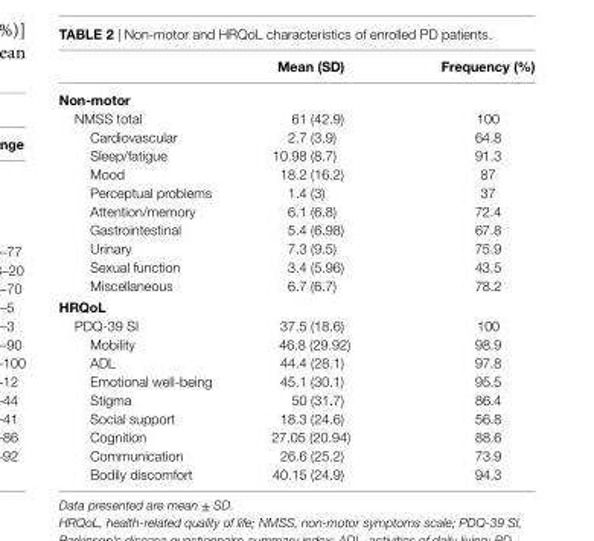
<table><thead><tr><td></td><td>Mean (sD)</td><td>Frequency (%)</td></tr></thead><tbody><tr><td colspan="3">non-motor</td></tr><tr><td>NMSS total</td><td>61 (42.9)</td><td>100</td></tr><tr><td>Cardiovascular</td><td>2.7 (3.9)</td><td>64.8</td></tr><tr><td>Sleep/fatigue</td><td>10.98 (8.7)</td><td>91.3</td></tr><tr><td>Mood</td><td>18.2 (16.2)</td><td>87</td></tr><tr><td>Perceptual problems</td><td>1.4 (3)</td><td>37</td></tr><tr><td>Attention/memory</td><td>6.1 (6.8)</td><td>72.4</td></tr><tr><td>Gastrointestinal</td><td>5.4 (6.98)</td><td>67.8</td></tr><tr><td>Urinary</td><td>7.3 (9.5)</td><td>75.9</td></tr><tr><td>Sexual function</td><td>3.4 (5.96)</td><td>43.5</td></tr><tr><td>Miscellaneous</td><td>6.7 (6.7)</td><td>78.2</td></tr><tr><td colspan="3">hrQol</td></tr><tr><td>PDQ-39 SI</td><td>37.5 (18.6)</td><td>100</td></tr><tr><td>Mobility</td><td>46.8 (29.92)</td><td>98.9</td></tr><tr><td>ADL</td><td>44.4 (28.1)</td><td>97.8</td></tr><tr><td>Emotional well-being</td><td>45.1 (30.1)</td><td>95.5</td></tr><tr><td>Stigma</td><td>50 (31.7)</td><td>86.4</td></tr><tr><td>Social support</td><td>18.3 (24.6)</td><td>56.8</td></tr><tr><td>Cognition</td><td>27.05 (20.94)</td><td>88.6</td></tr><tr><td>Communication</td><td>26.6 (25.2)</td><td>73.9</td></tr><tr><td>Bodily discomfort</td><td>40.15 (24.9)</td><td>94.3</td></tr></tbody></table>